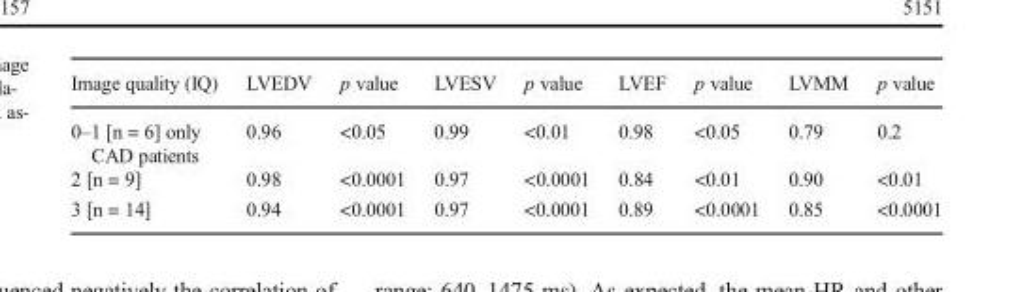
<table><thead><tr><td>Image quality (IQ)</td><td>LVEDV</td><td>p value</td><td>LVESV</td><td>p value</td><td>LVEF</td><td>p value</td><td>LVMM</td><td>p value</td></tr></thead><tbody><tr><td>0–1 [n = 6] only CAD patients</td><td>0.96</td><td>&lt;0.05</td><td>0.99</td><td>&lt;0.01</td><td>0.98</td><td>&lt;0.05</td><td>0.79</td><td>0.2</td></tr><tr><td>2 [n = 9]</td><td>0.98</td><td>&lt;0.0001</td><td>0.97</td><td>&lt;0.0001</td><td>0.84</td><td>&lt;0.01</td><td>0.90</td><td>&lt;0.01</td></tr><tr><td>3 [n = 14]</td><td>0.94</td><td>&lt;0.0001</td><td>0.97</td><td>&lt;0.0001</td><td>0.89</td><td>&lt;0.0001</td><td>0.85</td><td>&lt;0.0001</td></tr></tbody></table>